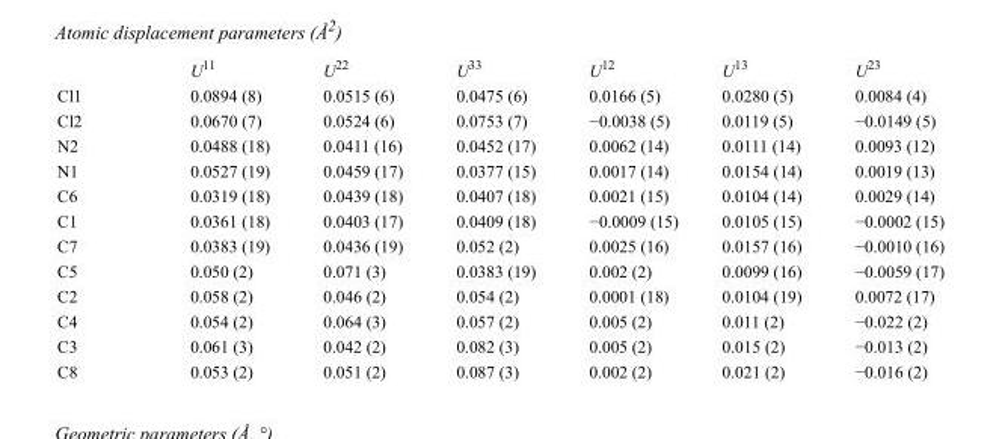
<table><thead><tr><td></td><td>U<sup>11</sup></td><td>U<sup>22</sup></td><td>U<sup>33</sup></td><td>U<sup>12</sup></td><td>U<sup>13</sup></td><td>U<sup>23</sup></td></tr></thead><tbody><tr><td>Cl1</td><td>0.0894 (8)</td><td>0.0515 (6)</td><td>0.0475 (6)</td><td>0.0166 (5)</td><td>0.0280 (5)</td><td>0.0084 (4)</td></tr><tr><td>Cl2</td><td>0.0670 (7)</td><td>0.0524 (6)</td><td>0.0753 (7)</td><td>−0.0038 (5)</td><td>0.0119 (5)</td><td>−0.0149 (5)</td></tr><tr><td>N2</td><td>0.0488 (18)</td><td>0.0411 (16)</td><td>0.0452 (17)</td><td>0.0062 (14)</td><td>0.0111 (14)</td><td>0.0093 (12)</td></tr><tr><td>N1</td><td>0.0527 (19)</td><td>0.0459 (17)</td><td>0.0377 (15)</td><td>0.0017 (14)</td><td>0.0154 (14)</td><td>0.0019 (13)</td></tr><tr><td>C6</td><td>0.0319 (18)</td><td>0.0439 (18)</td><td>0.0407 (18)</td><td>0.0021 (15)</td><td>0.0104 (14)</td><td>0.0029 (14)</td></tr><tr><td>C1</td><td>0.0361 (18)</td><td>0.0403 (17)</td><td>0.0409 (18)</td><td>−0.0009 (15)</td><td>0.0105 (15)</td><td>−0.0002 (15)</td></tr><tr><td>C7</td><td>0.0383 (19)</td><td>0.0436 (19)</td><td>0.052 (2)</td><td>0.0025 (16)</td><td>0.0157 (16)</td><td>−0.0010 (16)</td></tr><tr><td>C5</td><td>0.050 (2)</td><td>0.071 (3)</td><td>0.0383 (19)</td><td>0.002 (2)</td><td>0.0099 (16)</td><td>−0.0059 (17)</td></tr><tr><td>C2</td><td>0.058 (2)</td><td>0.046 (2)</td><td>0.054 (2)</td><td>0.0001 (18)</td><td>0.0104 (19)</td><td>0.0072 (17)</td></tr><tr><td>C4</td><td>0.054 (2)</td><td>0.064 (3)</td><td>0.057 (2)</td><td>0.005 (2)</td><td>0.011 (2)</td><td>−0.022 (2)</td></tr><tr><td>C3</td><td>0.061 (3)</td><td>0.042 (2)</td><td>0.082 (3)</td><td>0.005 (2)</td><td>0.015 (2)</td><td>−0.013 (2)</td></tr><tr><td>C8</td><td>0.053 (2)</td><td>0.051 (2)</td><td>0.087 (3)</td><td>0.002 (2)</td><td>0.021 (2)</td><td>−0.016 (2)</td></tr></tbody></table>